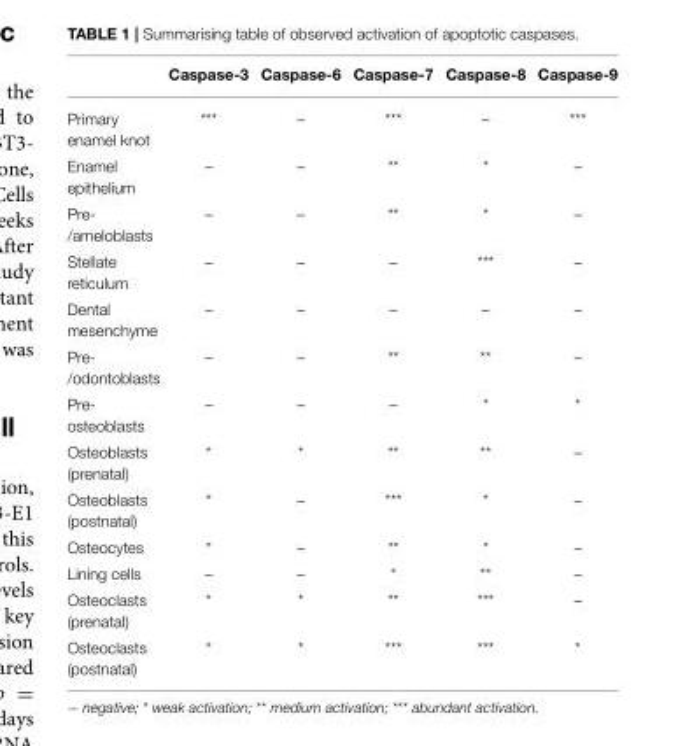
<table><thead><tr><td></td><td>Caspase-3</td><td>Caspase-6</td><td>Caspase-7</td><td>Caspase-8</td><td>Caspase-9</td></tr></thead><tbody><tr><td>Primary enamel knot</td><td>***</td><td><sup>–</sup></td><td>***</td><td><sup>–</sup></td><td>***</td></tr><tr><td>Enamel epithelium</td><td><sup>–</sup></td><td><sup>–</sup></td><td>**</td><td>*</td><td><sup>–</sup></td></tr><tr><td>Pre- /ameloblasts</td><td><sup>–</sup></td><td><sup>–</sup></td><td>**</td><td>*</td><td><sup>–</sup></td></tr><tr><td>Stellate reticulum</td><td><sup>–</sup></td><td><sup>–</sup></td><td><sup>–</sup></td><td>***</td><td><sup>–</sup></td></tr><tr><td>Dental mesenchyme</td><td><sup>–</sup></td><td><sup>–</sup></td><td><sup>–</sup></td><td><sup>–</sup></td><td><sup>–</sup></td></tr><tr><td>Pre- /odontoblasts</td><td><sup>–</sup></td><td><sup>–</sup></td><td>**</td><td>**</td><td><sup>–</sup></td></tr><tr><td>Pre- osteoblasts</td><td><sup>–</sup></td><td><sup>–</sup></td><td><sup>–</sup></td><td>*</td><td>*</td></tr><tr><td>Osteoblasts (prenatal)</td><td>*</td><td>*</td><td>**</td><td>**</td><td><sup>–</sup></td></tr><tr><td>Osteoblasts (postnatal)</td><td>*</td><td><sup>–</sup></td><td>***</td><td>*</td><td><sup>–</sup></td></tr><tr><td>Osteocytes</td><td>*</td><td><sup>–</sup></td><td>**</td><td>*</td><td><sup>–</sup></td></tr><tr><td>Lining cells</td><td><sup>–</sup></td><td><sup>–</sup></td><td>*</td><td>**</td><td><sup>–</sup></td></tr><tr><td>Osteoclasts (prenatal)</td><td>*</td><td>*</td><td>**</td><td>***</td><td><sup>–</sup></td></tr><tr><td>Osteoclasts (postnatal)</td><td>*</td><td>*</td><td>***</td><td>***</td><td>*</td></tr></tbody></table>